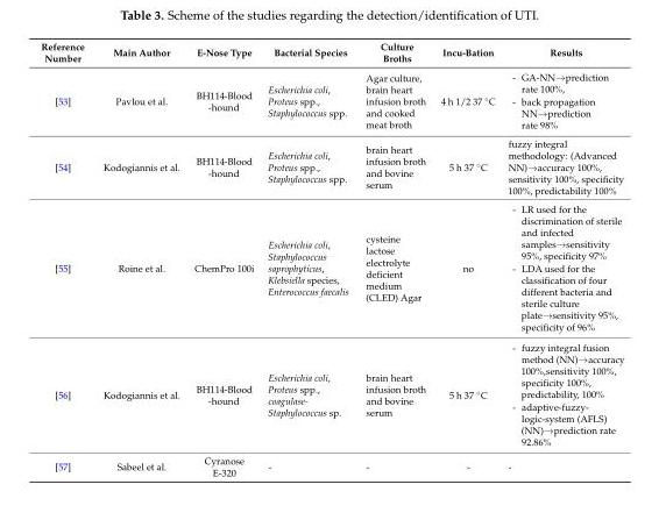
<table><thead><tr><td>Reference Number</td><td>Main Author</td><td>E-Nose Type</td><td>Bacterial Species</td><td>Culture Broths</td><td>Incu-Bation</td><td>Results</td></tr></thead><tbody><tr><td>[53]</td><td>Pavlou et al.</td><td>BH114-Blood -hound</td><td>Escherichia coli, Proteus spp., Staphylococcus spp.</td><td>Agar culture, brain heart infusion broth and cooked meat broth</td><td>4 h 1/2 37 ◦C</td><td>- GA-NN→prediction rate 100%, - back propagation NN→prediction rate 98%</td></tr><tr><td>[54]</td><td>Kodogiannis et al.</td><td>BH114-Blood -hound</td><td>Escherichia coli, Proteus spp., Staphylococcus spp.</td><td>brain heart infusion broth and bovine serum</td><td>5 h 37 ◦C</td><td>fuzzy integral methodology: (Advanced NN)→accuracy 100%, sensitivity 100%, specificity 100%, predictability 100%</td></tr><tr><td>[55]</td><td>Roine et al.</td><td>ChemPro 100i</td><td>Escherichia coli, Staphylococcus saprophyticus, Klebsiella species, Enterococcus faecalis</td><td>cysteine lactose electrolyte deficient medium (CLED) Agar</td><td>no</td><td>- LR used for the discrimination of sterile and infected samples→sensitivity 95%, specificity 97% - LDA used for the classification of four different bacteria and sterile culture plate→sensitivity 95%, specificity of 96%</td></tr><tr><td>[56]</td><td>Kodogiannis et al.</td><td>BH114-Blood -hound</td><td>Escherichia coli, Proteus spp., coagulase- Staphylococcus sp.</td><td>brain heart infusion broth and bovine serum</td><td>5 h 37 ◦C</td><td>- fuzzy integral fusion method (NN)→accuracy 100%,sensitivity 100%, specificity 100%, predictability, 100% - adaptive-fuzzy- logic-system (AFLS) (NN)→prediction rate 92.86%</td></tr><tr><td>[57]</td><td>Sabeel et al.</td><td>Cyranose E-320</td><td>-</td><td>-</td><td>-</td><td>-</td></tr></tbody></table>